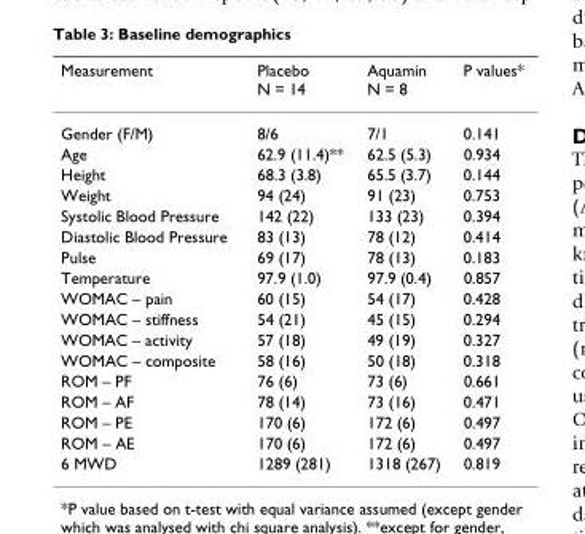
<table><thead><tr><td>Measurement</td><td>Placebo N = 14</td><td>Aquamin N = 8</td><td>P values*</td></tr></thead><tbody><tr><td>Gender (F/M)</td><td>8/6</td><td>7/1</td><td>0.141</td></tr><tr><td>Age</td><td>62.9 (11.4)**</td><td>62.5 (5.3)</td><td>0.934</td></tr><tr><td>Height</td><td>68.3 (3.8)</td><td>65.5 (3.7)</td><td>0.144</td></tr><tr><td>Weight</td><td>94 (24)</td><td>91 (23)</td><td>0.753</td></tr><tr><td>Systolic Blood Pressure</td><td>142 (22)</td><td>133 (23)</td><td>0.394</td></tr><tr><td>Diastolic Blood Pressure</td><td>83 (13)</td><td>78 (12)</td><td>0.414</td></tr><tr><td>Pulse</td><td>69 (17)</td><td>78 (13)</td><td>0.183</td></tr><tr><td>Temperature</td><td>97.9 (1.0)</td><td>97.9 (0.4)</td><td>0.857</td></tr><tr><td>WOMAC – pain</td><td>60 (15)</td><td>54 (17)</td><td>0.428</td></tr><tr><td>WOMAC – stiffness</td><td>54 (21)</td><td>45 (15)</td><td>0.294</td></tr><tr><td>WOMAC – activity</td><td>57 (18)</td><td>49 (19)</td><td>0.327</td></tr><tr><td>WOMAC – composite</td><td>58 (16)</td><td>50 (18)</td><td>0.318</td></tr><tr><td>ROM – PF</td><td>76 (6)</td><td>73 (6)</td><td>0.661</td></tr><tr><td>ROM – AF</td><td>78 (14)</td><td>73 (16)</td><td>0.471</td></tr><tr><td>ROM – PE</td><td>170 (6)</td><td>172 (6)</td><td>0.497</td></tr><tr><td>ROM – AE</td><td>170 (6)</td><td>172 (6)</td><td>0.497</td></tr><tr><td>6 MWD</td><td>1289 (281)</td><td>1318 (267)</td><td>0.819</td></tr></tbody></table>